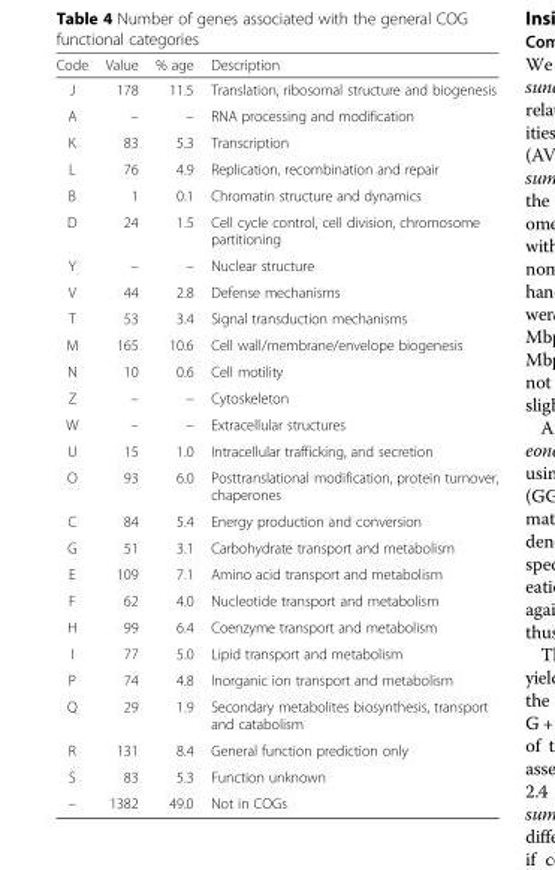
<table><thead><tr><td>Code</td><td>Value</td><td>% age</td><td>Description</td></tr></thead><tbody><tr><td>J</td><td>178</td><td>11.5</td><td>Translation, ribosomal structure and biogenesis</td></tr><tr><td>A</td><td>–</td><td>–</td><td>RNA processing and modification</td></tr><tr><td>K</td><td>83</td><td>5.3</td><td>Transcription</td></tr><tr><td>L</td><td>76</td><td>4.9</td><td>Replication, recombination and repair</td></tr><tr><td>B</td><td>1</td><td>0.1</td><td>Chromatin structure and dynamics</td></tr><tr><td>D</td><td>24</td><td>1.5</td><td>Cell cycle control, cell division, chromosome partitioning</td></tr><tr><td>Y</td><td>–</td><td>–</td><td>Nuclear structure</td></tr><tr><td>V</td><td>44</td><td>2.8</td><td>Defense mechanisms</td></tr><tr><td>T</td><td>53</td><td>3.4</td><td>Signal transduction mechanisms</td></tr><tr><td>M</td><td>165</td><td>10.6</td><td>Cell wall/membrane/envelope biogenesis</td></tr><tr><td>N</td><td>10</td><td>0.6</td><td>Cell motility</td></tr><tr><td>Z</td><td>–</td><td>–</td><td>Cytoskeleton</td></tr><tr><td>W</td><td>–</td><td>–</td><td>Extracellular structures</td></tr><tr><td>U</td><td>15</td><td>1.0</td><td>Intracellular trafficking, and secretion</td></tr><tr><td>O</td><td>93</td><td>6.0</td><td>Posttranslational modification, protein turnover, chaperones</td></tr><tr><td>C</td><td>84</td><td>5.4</td><td>Energy production and conversion</td></tr><tr><td>G</td><td>51</td><td>3.1</td><td>Carbohydrate transport and metabolism</td></tr><tr><td>E</td><td>109</td><td>7.1</td><td>Amino acid transport and metabolism</td></tr><tr><td>F</td><td>62</td><td>4.0</td><td>Nucleotide transport and metabolism</td></tr><tr><td>H</td><td>99</td><td>6.4</td><td>Coenzyme transport and metabolism</td></tr><tr><td>I</td><td>77</td><td>5.0</td><td>Lipid transport and metabolism</td></tr><tr><td>P</td><td>74</td><td>4.8</td><td>Inorganic ion transport and metabolism</td></tr><tr><td>Q</td><td>29</td><td>1.9</td><td>Secondary metabolites biosynthesis, transport and catabolism</td></tr><tr><td>R</td><td>131</td><td>8.4</td><td>General function prediction only</td></tr><tr><td>S</td><td>83</td><td>5.3</td><td>Function unknown</td></tr><tr><td>–</td><td>1382</td><td>49.0</td><td>Not in COGs</td></tr></tbody></table>